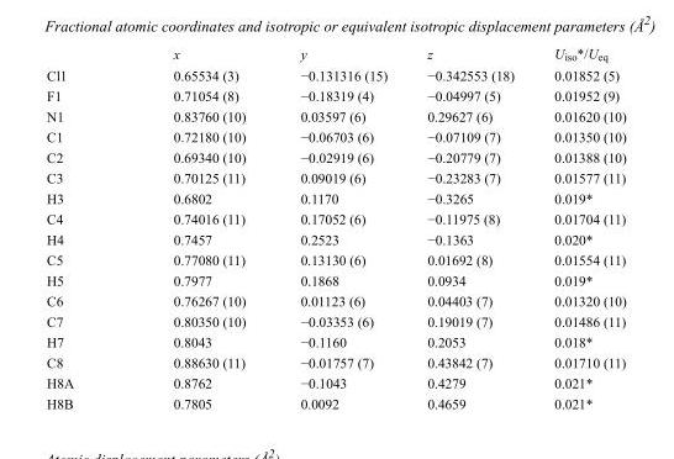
<table><thead><tr><td></td><td>x</td><td>y</td><td>z</td><td>U<sub>iso</sub>*/U<sub>eq</sub></td></tr></thead><tbody><tr><td>Cl1</td><td>0.65534 (3)</td><td>−0.131316 (15)</td><td>−0.342553 (18)</td><td>0.01852 (5)</td></tr><tr><td>F1</td><td>0.71054 (8)</td><td>−0.18319 (4)</td><td>−0.04997 (5)</td><td>0.01952 (9)</td></tr><tr><td>N1</td><td>0.83760 (10)</td><td>0.03597 (6)</td><td>0.29627 (6)</td><td>0.01620 (10)</td></tr><tr><td>C1</td><td>0.72180 (10)</td><td>−0.06703 (6)</td><td>−0.07109 (7)</td><td>0.01350 (10)</td></tr><tr><td>C2</td><td>0.69340 (10)</td><td>−0.02919 (6)</td><td>−0.20779 (7)</td><td>0.01388 (10)</td></tr><tr><td>C3</td><td>0.70125 (11)</td><td>0.09019 (6)</td><td>−0.23283 (7)</td><td>0.01577 (11)</td></tr><tr><td>H3</td><td>0.6802</td><td>0.1170</td><td>−0.3265</td><td>0.019*</td></tr><tr><td>C4</td><td>0.74016 (11)</td><td>0.17052 (6)</td><td>−0.11975 (8)</td><td>0.01704 (11)</td></tr><tr><td>H4</td><td>0.7457</td><td>0.2523</td><td>−0.1363</td><td>0.020*</td></tr><tr><td>C5</td><td>0.77080 (11)</td><td>0.13130 (6)</td><td>0.01692 (8)</td><td>0.01554 (11)</td></tr><tr><td>H5</td><td>0.7977</td><td>0.1868</td><td>0.0934</td><td>0.019*</td></tr><tr><td>C6</td><td>0.76267 (10)</td><td>0.01123 (6)</td><td>0.04403 (7)</td><td>0.01320 (10)</td></tr><tr><td>C7</td><td>0.80350 (10)</td><td>−0.03353 (6)</td><td>0.19019 (7)</td><td>0.01486 (11)</td></tr><tr><td>H7</td><td>0.8043</td><td>−0.1160</td><td>0.2053</td><td>0.018*</td></tr><tr><td>C8</td><td>0.88630 (11)</td><td>−0.01757 (7)</td><td>0.43842 (7)</td><td>0.01710 (11)</td></tr><tr><td>H8A</td><td>0.8762</td><td>−0.1043</td><td>0.4279</td><td>0.021*</td></tr><tr><td>H8B</td><td>0.7805</td><td>0.0092</td><td>0.4659</td><td>0.021*</td></tr></tbody></table>